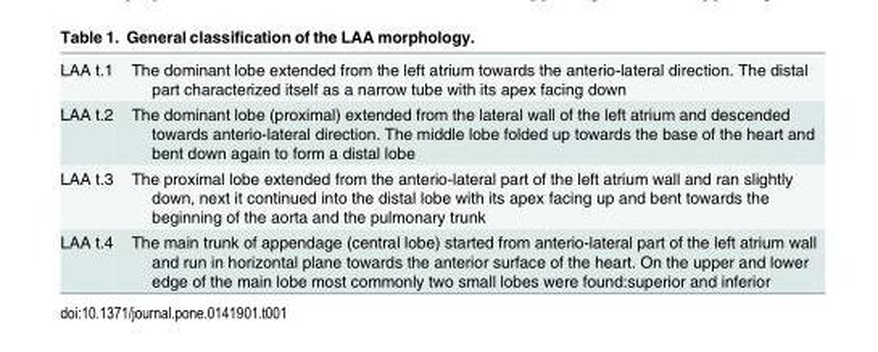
<table><tbody><tr><td>LAA t.1</td><td>The dominant lobe extended from the left atrium towards the anterio-lateral direction. The distal part characterized itself as a narrow tube with its apex facing down</td></tr><tr><td>LAA t.2</td><td>The dominant lobe (proximal) extended from the lateral wall of the left atrium and descended towards anterio-lateral direction. The middle lobe folded up towards the base of the heart and bent down again to form a distal lobe</td></tr><tr><td>LAA t.3</td><td>The proximal lobe extended from the anterio-lateral part of the left atrium wall and ran slightly down, next it continued into the distal lobe with its apex facing up and bent towards the beginning of the aorta and the pulmonary trunk</td></tr><tr><td>LAA t.4</td><td>The main trunk of appendage (central lobe) started from anterio-lateral part of the left atrium wall and run in horizontal plane towards the anterior surface of the heart. On the upper and lower edge of the main lobe most commonly two small lobes were found:superior and inferior</td></tr></tbody></table>